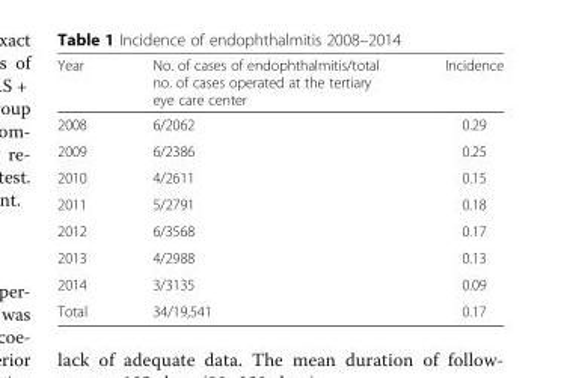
<table><thead><tr><td>Year</td><td>No. of cases of endophthalmitis/total no. of cases operated at the tertiary eye care center</td><td>Incidence</td></tr></thead><tbody><tr><td>2008</td><td>6/2062</td><td>0.29</td></tr><tr><td>2009</td><td>6/2386</td><td>0.25</td></tr><tr><td>2010</td><td>4/2611</td><td>0.15</td></tr><tr><td>2011</td><td>5/2791</td><td>0.18</td></tr><tr><td>2012</td><td>6/3568</td><td>0.17</td></tr><tr><td>2013</td><td>4/2988</td><td>0.13</td></tr><tr><td>2014</td><td>3/3135</td><td>0.09</td></tr><tr><td>Total</td><td>34/19,541</td><td>0.17</td></tr></tbody></table>